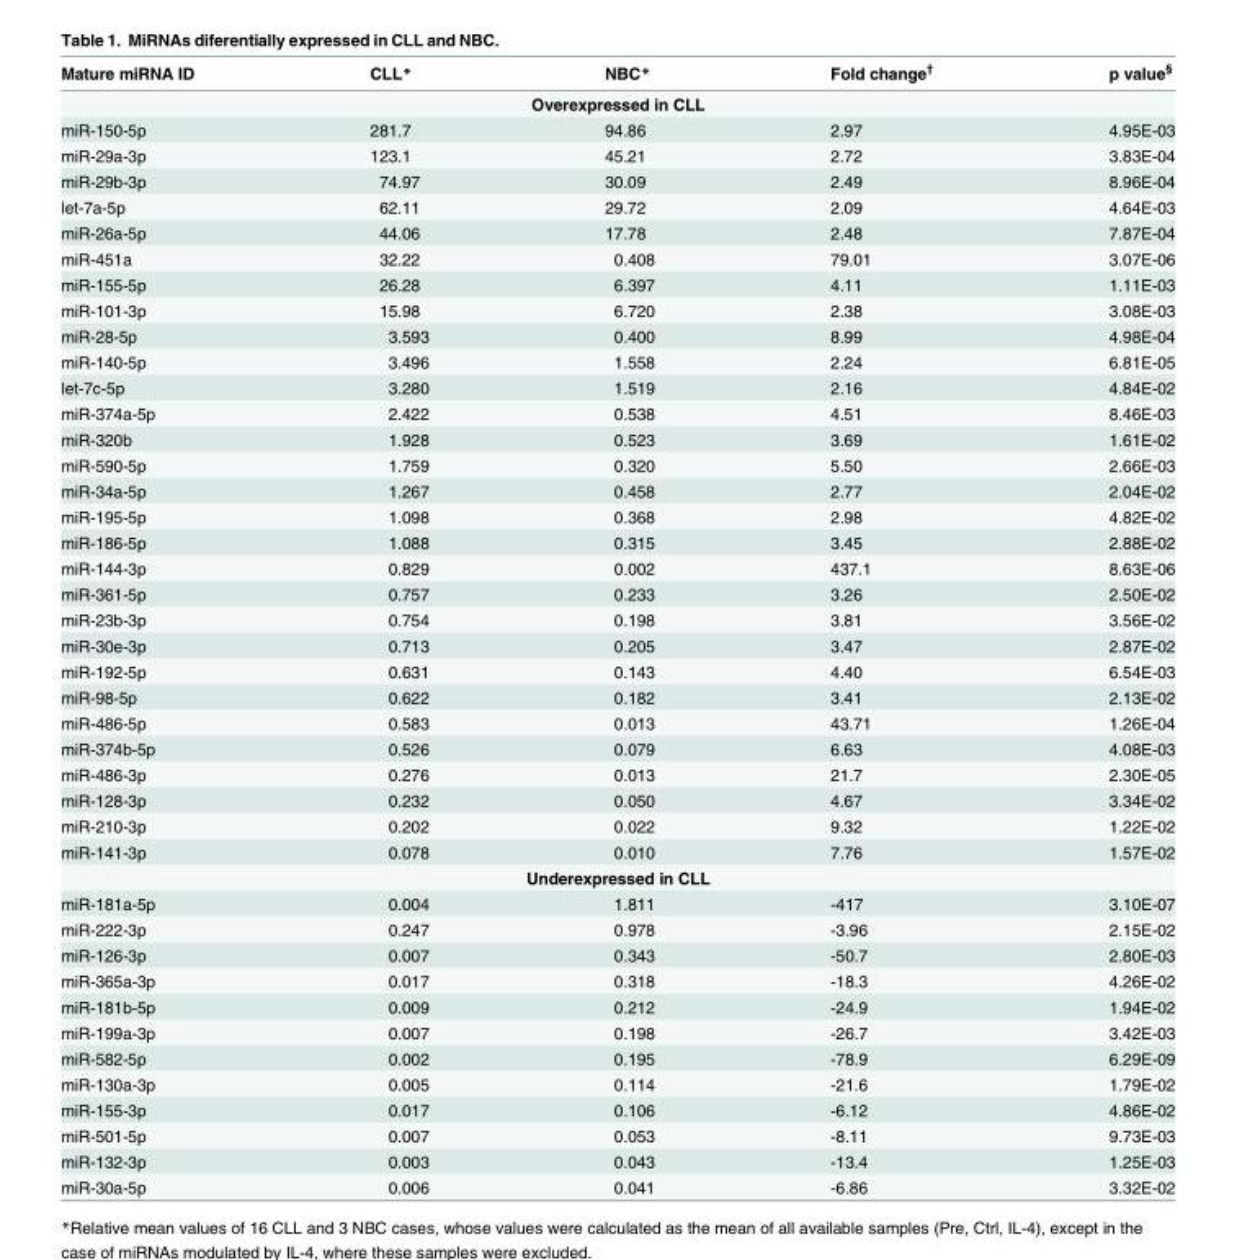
<table><thead><tr><td>Mature miRNA ID</td><td>CLL*</td><td>NBC*</td><td>Fold change<sup>†</sup></td><td>p value<sup>§</sup></td></tr></thead><tbody><tr><td colspan="5">Overexpressed in CLL</td></tr><tr><td>miR-150-5p</td><td>281.7</td><td>94.86</td><td>2.97</td><td>4.95E-03</td></tr><tr><td>miR-29a-3p</td><td>123.1</td><td>45.21</td><td>2.72</td><td>3.83E-04</td></tr><tr><td>miR-29b-3p</td><td>74.97</td><td>30.09</td><td>2.49</td><td>8.96E-04</td></tr><tr><td>let-7a-5p</td><td>62.11</td><td>29.72</td><td>2.09</td><td>4.64E-03</td></tr><tr><td>miR-26a-5p</td><td>44.06</td><td>17.78</td><td>2.48</td><td>7.87E-04</td></tr><tr><td>miR-451a</td><td>32.22</td><td>0.408</td><td>79.01</td><td>3.07E-06</td></tr><tr><td>miR-155-5p</td><td>26.28</td><td>6.397</td><td>4.11</td><td>1.11E-03</td></tr><tr><td>miR-101-3p</td><td>15.98</td><td>6.720</td><td>2.38</td><td>3.08E-03</td></tr><tr><td>miR-28-5p</td><td>3.593</td><td>0.400</td><td>8.99</td><td>4.98E-04</td></tr><tr><td>miR-140-5p</td><td>3.496</td><td>1.558</td><td>2.24</td><td>6.81E-05</td></tr><tr><td>let-7c-5p</td><td>3.280</td><td>1.519</td><td>2.16</td><td>4.84E-02</td></tr><tr><td>miR-374a-5p</td><td>2.422</td><td>0.538</td><td>4.51</td><td>8.46E-03</td></tr><tr><td>miR-320b</td><td>1.928</td><td>0.523</td><td>3.69</td><td>1.61E-02</td></tr><tr><td>miR-590-5p</td><td>1.759</td><td>0.320</td><td>5.50</td><td>2.66E-03</td></tr><tr><td>miR-34a-5p</td><td>1.267</td><td>0.458</td><td>2.77</td><td>2.04E-02</td></tr><tr><td>miR-195-5p</td><td>1.098</td><td>0.368</td><td>2.98</td><td>4.82E-02</td></tr><tr><td>miR-186-5p</td><td>1.088</td><td>0.315</td><td>3.45</td><td>2.88E-02</td></tr><tr><td>miR-144-3p</td><td>0.829</td><td>0.002</td><td>437.1</td><td>8.63E-06</td></tr><tr><td>miR-361-5p</td><td>0.757</td><td>0.233</td><td>3.26</td><td>2.50E-02</td></tr><tr><td>miR-23b-3p</td><td>0.754</td><td>0.198</td><td>3.81</td><td>3.56E-02</td></tr><tr><td>miR-30e-3p</td><td>0.713</td><td>0.205</td><td>3.47</td><td>2.87E-02</td></tr><tr><td>miR-192-5p</td><td>0.631</td><td>0.143</td><td>4.40</td><td>6.54E-03</td></tr><tr><td>miR-98-5p</td><td>0.622</td><td>0.182</td><td>3.41</td><td>2.13E-02</td></tr><tr><td>miR-486-5p</td><td>0.583</td><td>0.013</td><td>43.71</td><td>1.26E-04</td></tr><tr><td>miR-374b-5p</td><td>0.526</td><td>0.079</td><td>6.63</td><td>4.08E-03</td></tr><tr><td>miR-486-3p</td><td>0.276</td><td>0.013</td><td>21.7</td><td>2.30E-05</td></tr><tr><td>miR-128-3p</td><td>0.232</td><td>0.050</td><td>4.67</td><td>3.34E-02</td></tr><tr><td>miR-210-3p</td><td>0.202</td><td>0.022</td><td>9.32</td><td>1.22E-02</td></tr><tr><td>miR-141-3p</td><td>0.078</td><td>0.010</td><td>7.76</td><td>1.57E-02</td></tr><tr><td colspan="5">Underexpressed in CLL</td></tr><tr><td>miR-181a-5p</td><td>0.004</td><td>1.811</td><td>-417</td><td>3.10E-07</td></tr><tr><td>miR-222-3p</td><td>0.247</td><td>0.978</td><td>-3.96</td><td>2.15E-02</td></tr><tr><td>miR-126-3p</td><td>0.007</td><td>0.343</td><td>-50.7</td><td>2.80E-03</td></tr><tr><td>miR-365a-3p</td><td>0.017</td><td>0.318</td><td>-18.3</td><td>4.26E-02</td></tr><tr><td>miR-181b-5p</td><td>0.009</td><td>0.212</td><td>-24.9</td><td>1.94E-02</td></tr><tr><td>miR-199a-3p</td><td>0.007</td><td>0.198</td><td>-26.7</td><td>3.42E-03</td></tr><tr><td>miR-582-5p</td><td>0.002</td><td>0.195</td><td>-78.9</td><td>6.29E-09</td></tr><tr><td>miR-130a-3p</td><td>0.005</td><td>0.114</td><td>-21.6</td><td>1.79E-02</td></tr><tr><td>miR-155-3p</td><td>0.017</td><td>0.106</td><td>-6.12</td><td>4.86E-02</td></tr><tr><td>miR-501-5p</td><td>0.007</td><td>0.053</td><td>-8.11</td><td>9.73E-03</td></tr><tr><td>miR-132-3p</td><td>0.003</td><td>0.043</td><td>-13.4</td><td>1.25E-03</td></tr><tr><td>miR-30a-5p</td><td>0.006</td><td>0.041</td><td>-6.86</td><td>3.32E-02</td></tr></tbody></table>